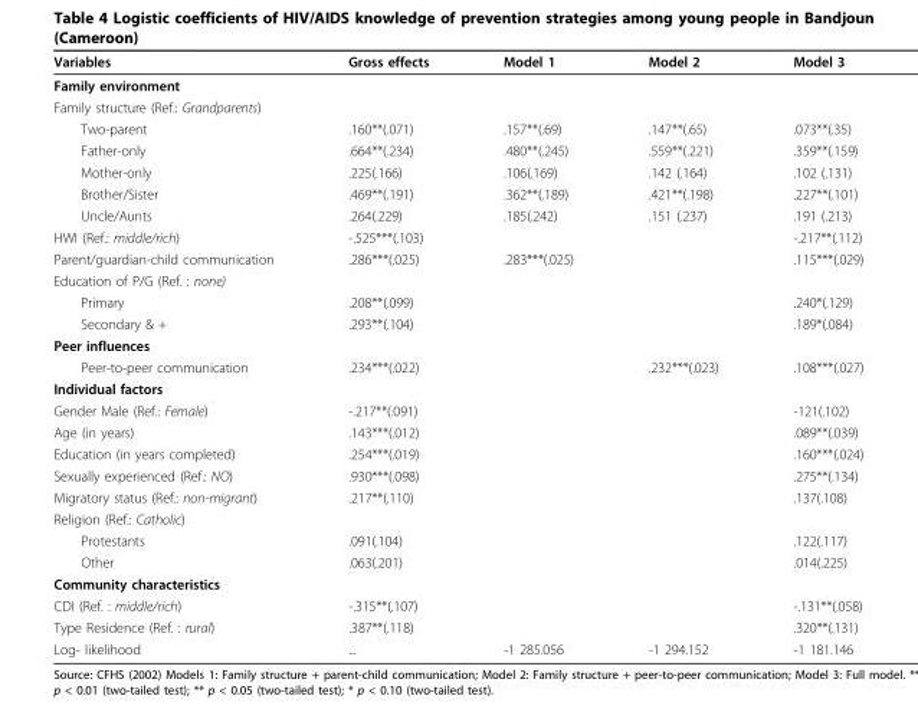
<table><thead><tr><td>Variables</td><td>Gross effects</td><td>Model 1</td><td>Model 2</td><td>Model 3</td></tr></thead><tbody><tr><td colspan="5">Family environment</td></tr><tr><td colspan="5">Family structure (Ref.: Grandparents)</td></tr><tr><td>Two-parent</td><td>.160**(.071)</td><td>.157**(.69)</td><td>.147**(.65)</td><td>.073**(.35)</td></tr><tr><td>Father-only</td><td>.664**(.234)</td><td>.480**(.245)</td><td>.559**(.221)</td><td>.359**(.159)</td></tr><tr><td>Mother-only</td><td>.225(.166)</td><td>.106(.169)</td><td>.142 (.164)</td><td>.102 (.131)</td></tr><tr><td>Brother/Sister</td><td>.469**(.191)</td><td>.362**(.189)</td><td>.421**(.198)</td><td>.227**(.101)</td></tr><tr><td>Uncle/Aunts</td><td>.264(.229)</td><td>.185(.242)</td><td>.151 (.237)</td><td>.191 (.213)</td></tr><tr><td>HWI (Ref.: middle/rich)</td><td>-.525***(.103)</td><td></td><td></td><td>-.217**(.112)</td></tr><tr><td>Parent/guardian-child communication</td><td>.286***(.025)</td><td>.283***(.025)</td><td></td><td>.115***(.029)</td></tr><tr><td colspan="5">Education of P/G (Ref. : none)</td></tr><tr><td>Primary</td><td>.208**(.099)</td><td></td><td></td><td>.240*(.129)</td></tr><tr><td>Secondary &amp; +</td><td>.293**(.104)</td><td></td><td></td><td>.189*(.084)</td></tr><tr><td colspan="5">Peer influences</td></tr><tr><td>Peer-to-peer communication</td><td>.234***(.022)</td><td></td><td>.232***(.023)</td><td>.108***(.027)</td></tr><tr><td colspan="5">Individual factors</td></tr><tr><td>Gender Male (Ref.: Female)</td><td>-.217**(.091)</td><td></td><td></td><td>-121(.102)</td></tr><tr><td>Age (in years)</td><td>.143***(.012)</td><td></td><td></td><td>.089**(.039)</td></tr><tr><td>Education (in years completed)</td><td>.254***(.019)</td><td></td><td></td><td>.160***(.024)</td></tr><tr><td>Sexually experienced (Ref.: NO)</td><td>.930***(.098)</td><td></td><td></td><td>.275**(.134)</td></tr><tr><td>Migratory status (Ref.: non-migrant)</td><td>.217**(.110)</td><td></td><td></td><td>.137(.108)</td></tr><tr><td colspan="5">Religion (Ref.: Catholic)</td></tr><tr><td>Protestants</td><td>.091(.104)</td><td></td><td></td><td>.122(.117)</td></tr><tr><td>Other</td><td>.063(.201)</td><td></td><td></td><td>.014(.225)</td></tr><tr><td colspan="5">Community characteristics</td></tr><tr><td>CDI (Ref. : middle/rich)</td><td>-.315**(.107)</td><td></td><td></td><td>-.131**(.058)</td></tr><tr><td>Type Residence (Ref. : rural)</td><td>.387**(.118)</td><td></td><td></td><td>.320**(.131)</td></tr><tr><td>Log- likelihood</td><td>...</td><td>-1 285.056</td><td>-1 294.152</td><td>-1 181.146</td></tr></tbody></table>